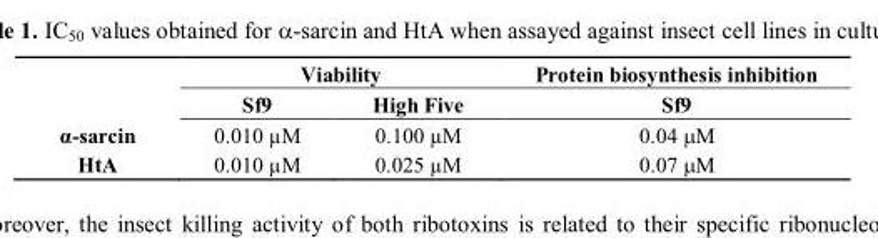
<table><thead><tr><td rowspan="2"></td><td colspan="2">Viability</td><td rowspan="2">Protein biosynthesis inhibition Sf9</td></tr><tr><td>Sf9</td><td>High Five</td></tr></thead><tbody><tr><td>α-sarcin</td><td>0.010 µM</td><td>0.100 µM</td><td>0.04 µM</td></tr><tr><td>HtA</td><td>0.010 µM</td><td>0.025 µM</td><td>0.07 µM</td></tr></tbody></table>